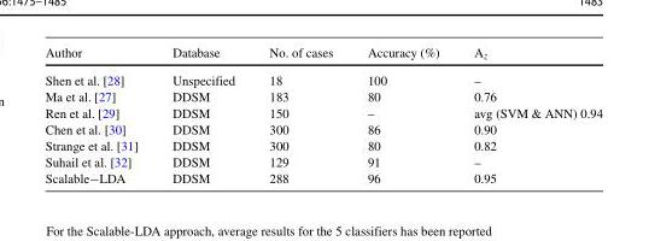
<table><thead><tr><td>Author</td><td>Database</td><td>No. of cases</td><td>Accuracy (%)</td><td>A<sub>z</sub></td></tr></thead><tbody><tr><td>Shen et al. [28]</td><td>Unspecified</td><td>18</td><td>100</td><td>–</td></tr><tr><td>Ma et al. [27]</td><td>DDSM</td><td>183</td><td>80</td><td>0.76</td></tr><tr><td>Ren et al. [29]</td><td>DDSM</td><td>150</td><td>–</td><td>avg (SVM &amp; ANN) 0.94</td></tr><tr><td>Chen et al. [30]</td><td>DDSM</td><td>300</td><td>86</td><td>0.90</td></tr><tr><td>Strange et al. [31]</td><td>DDSM</td><td>300</td><td>80</td><td>0.82</td></tr><tr><td>Suhail et al. [32]</td><td>DDSM</td><td>129</td><td>91</td><td>–</td></tr><tr><td>Scalable−LDA</td><td>DDSM</td><td>288</td><td>96</td><td>0.95</td></tr></tbody></table>